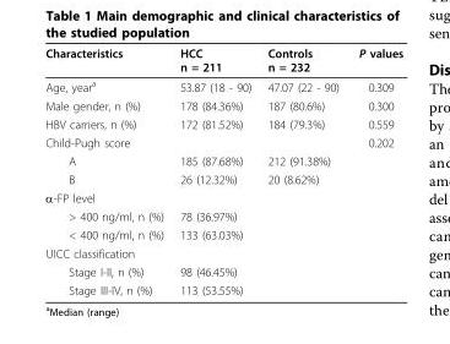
<table><thead><tr><td>Characteristics</td><td>HCC n = 211</td><td>Controls n = 232</td><td>P values</td></tr></thead><tbody><tr><td>Age, year<sup>a</sup></td><td>53.87 (18 - 90)</td><td>47.07 (22 - 90)</td><td>0.309</td></tr><tr><td>Male gender, n (%)</td><td>178 (84.36%)</td><td>187 (80.6%)</td><td>0.300</td></tr><tr><td>HBV carriers, n (%)</td><td>172 (81.52%)</td><td>184 (79.3%)</td><td>0.559</td></tr><tr><td>Child-Pugh score</td><td></td><td></td><td>0.202</td></tr><tr><td>A</td><td>185 (87.68%)</td><td>212 (91.38%)</td><td></td></tr><tr><td>B</td><td>26 (12.32%)</td><td>20 (8.62%)</td><td></td></tr><tr><td colspan="4">α-FP level</td></tr><tr><td>&gt; 400 ng/ml, n (%)</td><td>78 (36.97%)</td><td></td><td></td></tr><tr><td>&lt; 400 ng/ml, n (%)</td><td>133 (63.03%)</td><td></td><td></td></tr><tr><td colspan="4">UICC classification</td></tr><tr><td>Stage I-II, n (%)</td><td>98 (46.45%)</td><td></td><td></td></tr><tr><td>Stage III-IV, n (%)</td><td>113 (53.55%)</td><td></td><td></td></tr></tbody></table>